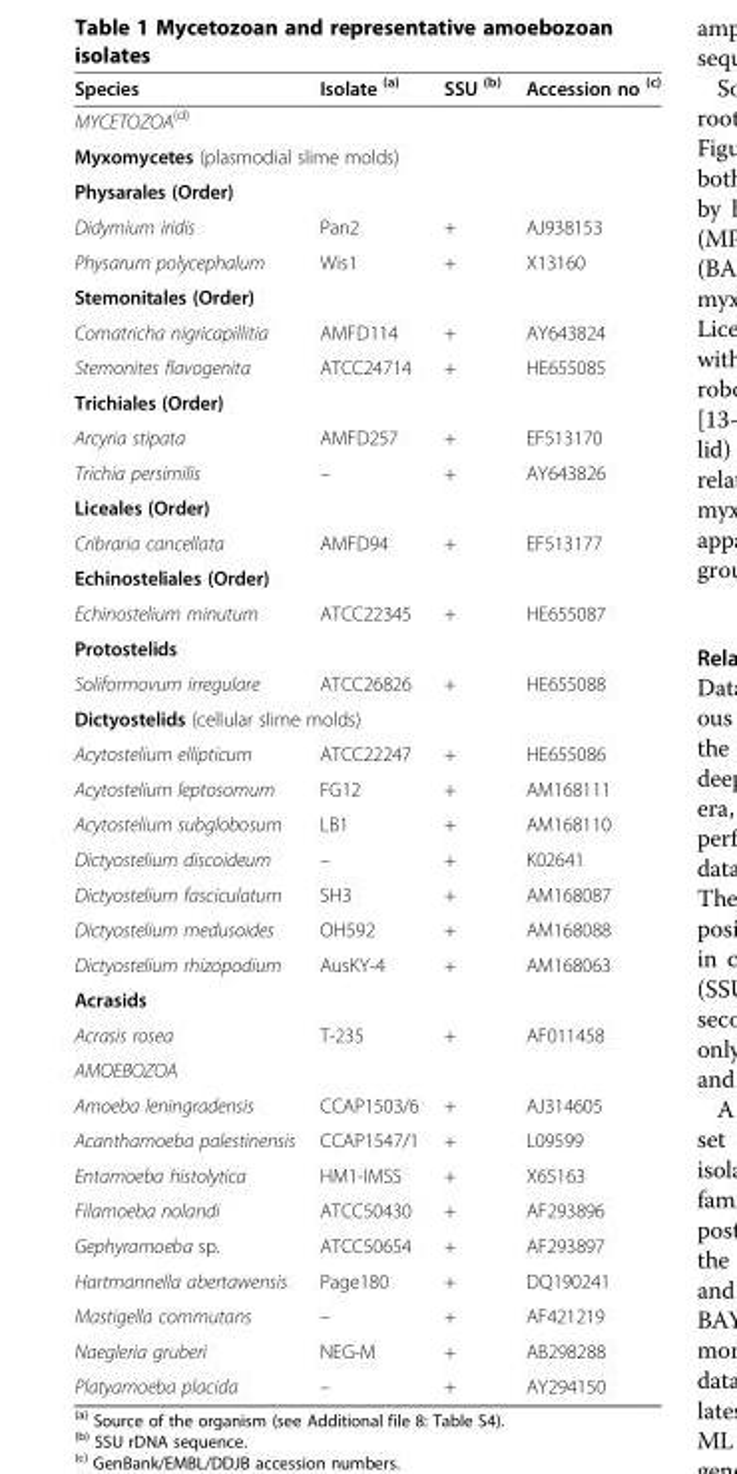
<table><thead><tr><td>Species</td><td>Isolate <sup>(a)</sup></td><td>SSU <sup>(b)</sup></td><td>Accession no <sup>(c)</sup></td></tr></thead><tbody><tr><td colspan="4">MYCETOZOA<sup>(d)</sup></td></tr><tr><td colspan="4">Myxomycetes (plasmodial slime molds)</td></tr><tr><td colspan="4">Physarales (Order)</td></tr><tr><td>Didymium iridis</td><td>Pan2</td><td>+</td><td>AJ938153</td></tr><tr><td>Physarum polycephalum</td><td>Wis1</td><td>+</td><td>X13160</td></tr><tr><td colspan="4">Stemonitales (Order)</td></tr><tr><td>Comatricha nigricapillitia</td><td>AMFD114</td><td>+</td><td>AY643824</td></tr><tr><td>Stemonites flavogenita</td><td>ATCC24714</td><td>+</td><td>HE655085</td></tr><tr><td colspan="4">Trichiales (Order)</td></tr><tr><td>Arcyria stipata</td><td>AMFD257</td><td>+</td><td>EF513170</td></tr><tr><td>Trichia persimilis</td><td>–</td><td>+</td><td>AY643826</td></tr><tr><td colspan="4">Liceales (Order)</td></tr><tr><td>Cribraria cancellata</td><td>AMFD94</td><td>+</td><td>EF513177</td></tr><tr><td colspan="4">Echinosteliales (Order)</td></tr><tr><td>Echinostelium minutum</td><td>ATCC22345</td><td>+</td><td>HE655087</td></tr><tr><td colspan="4">Protostelids</td></tr><tr><td>Soliformovum irregulare</td><td>ATCC26826</td><td>+</td><td>HE655088</td></tr><tr><td colspan="4">Dictyostelids (cellular slime molds)</td></tr><tr><td>Acytostelium ellipticum</td><td>ATCC22247</td><td>+</td><td>HE655086</td></tr><tr><td>Acytostelium leptosomum</td><td>FG12</td><td>+</td><td>AM168111</td></tr><tr><td>Acytostelium subglobosum</td><td>LB1</td><td>+</td><td>AM168110</td></tr><tr><td>Dictyostelium discoideum</td><td>–</td><td>+</td><td>K02641</td></tr><tr><td>Dictyostelium fasciculatum</td><td>SH3</td><td>+</td><td>AM168087</td></tr><tr><td>Dictyostelium medusoides</td><td>OH592</td><td>+</td><td>AM168088</td></tr><tr><td>Dictyostelium rhizopodium</td><td>AusKY-4</td><td>+</td><td>AM168063</td></tr><tr><td colspan="4">Acrasids</td></tr><tr><td>Acrasis rosea</td><td>T-235</td><td>+</td><td>AF011458</td></tr><tr><td colspan="4">AMOEBOZOA</td></tr><tr><td>Amoeba leningradensis</td><td>CCAP1503/6</td><td>+</td><td>AJ314605</td></tr><tr><td>Acanthamoeba palestinensis</td><td>CCAP1547/1</td><td>+</td><td>L09599</td></tr><tr><td>Entamoeba histolytica</td><td>HM1-IMSS</td><td>+</td><td>X65163</td></tr><tr><td>Filamoeba nolandi</td><td>ATCC50430</td><td>+</td><td>AF293896</td></tr><tr><td>Gephyramoeba sp.</td><td>ATCC50654</td><td>+</td><td>AF293897</td></tr><tr><td>Hartmannella abertawensis</td><td>Page180</td><td>+</td><td>DQ190241</td></tr><tr><td>Mastigella commutans</td><td>–</td><td>+</td><td>AF421219</td></tr><tr><td>Naegleria gruberi</td><td>NEG-M</td><td>+</td><td>AB298288</td></tr><tr><td>Platyamoeba placida</td><td>–</td><td>+</td><td>AY294150</td></tr></tbody></table>